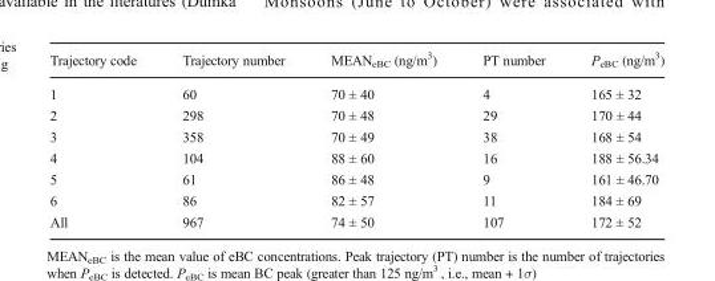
<table><thead><tr><td>Trajectory code</td><td>Trajectory number</td><td>MEAN<sub>eBC</sub> (ng/m<sup>3</sup>)</td><td>PT number</td><td>P<sub>eBC</sub> (ng/m<sup>3</sup>)</td></tr></thead><tbody><tr><td>1</td><td>60</td><td>70 ± 40</td><td>4</td><td>165 ± 32</td></tr><tr><td>2</td><td>298</td><td>70 ± 48</td><td>29</td><td>170 ± 44</td></tr><tr><td>3</td><td>358</td><td>70 ± 49</td><td>38</td><td>168 ± 54</td></tr><tr><td>4</td><td>104</td><td>88 ± 60</td><td>16</td><td>188 ± 56.34</td></tr><tr><td>5</td><td>61</td><td>86 ± 48</td><td>9</td><td>161 ± 46.70</td></tr><tr><td>6</td><td>86</td><td>82 ± 57</td><td>11</td><td>184 ± 69</td></tr><tr><td>All</td><td>967</td><td>74 ± 50</td><td>107</td><td>172 ± 52</td></tr></tbody></table>